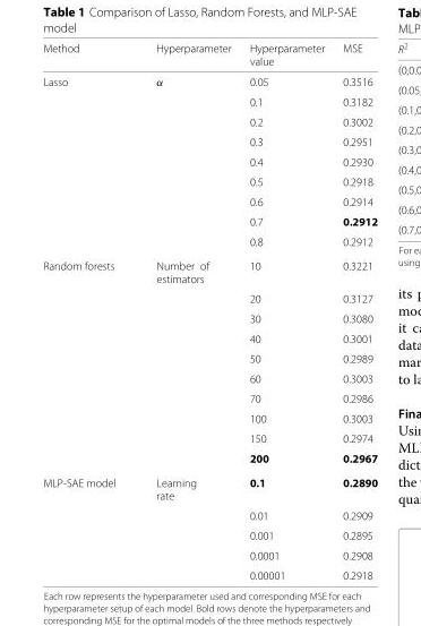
<table><thead><tr><td>Method</td><td>Hyperparameter</td><td>Hyperparameter value</td><td>MSE</td></tr></thead><tbody><tr><td rowspan="9">Lasso</td><td>α</td><td>0.05</td><td>0.3516</td></tr><tr><td></td><td>0.1</td><td>0.3182</td></tr><tr><td></td><td>0.2</td><td>0.3002</td></tr><tr><td></td><td>0.3</td><td>0.2951</td></tr><tr><td></td><td>0.4</td><td>0.2930</td></tr><tr><td></td><td>0.5</td><td>0.2918</td></tr><tr><td></td><td>0.6</td><td>0.2914</td></tr><tr><td></td><td>0.7</td><td>0.2912</td></tr><tr><td></td><td>0.8</td><td>0.2912</td></tr><tr><td rowspan="10">Random forests</td><td>Number of estimators</td><td>10</td><td>0.3221</td></tr><tr><td></td><td>20</td><td>0.3127</td></tr><tr><td></td><td>30</td><td>0.3080</td></tr><tr><td></td><td>40</td><td>0.3001</td></tr><tr><td></td><td>50</td><td>0.2989</td></tr><tr><td></td><td>60</td><td>0.3003</td></tr><tr><td></td><td>70</td><td>0.2986</td></tr><tr><td></td><td>100</td><td>0.3003</td></tr><tr><td></td><td>150</td><td>0.2974</td></tr><tr><td></td><td>200</td><td>0.2967</td></tr><tr><td rowspan="5">MLP-SAE model</td><td>Learning rate</td><td>0.1</td><td>0.2890</td></tr><tr><td></td><td>0.01</td><td>0.2909</td></tr><tr><td></td><td>0.001</td><td>0.2895</td></tr><tr><td></td><td>0.0001</td><td>0.2908</td></tr><tr><td></td><td>0.00001</td><td>0.2918</td></tr></tbody></table>